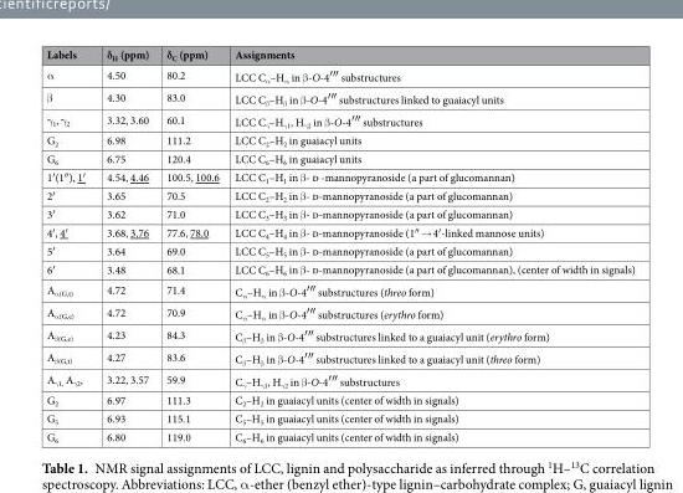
<table><thead><tr><td>Labels</td><td>δ<sub>H</sub> (ppm)</td><td>δ<sub>C</sub> (ppm)</td><td>Assignments</td></tr></thead><tbody><tr><td>α</td><td>4.50</td><td>80.2</td><td>LCC C<sub>α</sub>–H<sub>α</sub> in β-O-4′″ substructures</td></tr><tr><td>β</td><td>4.30</td><td>83.0</td><td>LCC C<sub>β</sub>–H<sub>β</sub> in β-O-4′″ substructures linked to guaiacyl units</td></tr><tr><td>γ<sub>1</sub>, γ<sub>2</sub></td><td>3.32, 3.60</td><td>60.1</td><td>LCC C<sub>γ</sub>–H<sub>γ1</sub>, H<sub>γ2</sub> in β-O-4′″ substructures</td></tr><tr><td>G<sub>2</sub></td><td>6.98</td><td>111.2</td><td>LCC C<sub>2</sub>–H<sub>2</sub> in guaiacyl units</td></tr><tr><td>G<sub>6</sub></td><td>6.75</td><td>120.4</td><td>LCC C<sub>6</sub>–H<sub>6</sub> in guaiacyl units</td></tr><tr><td>1′(1″), 1′</td><td>4.54, 4.46</td><td>100.5, 100.6</td><td>LCC C<sub>1</sub>–H<sub>1</sub> in β- d -mannopyranoside (a part of glucomannan)</td></tr><tr><td>2′</td><td>3.65</td><td>70.5</td><td>LCC C<sub>2</sub>–H<sub>2</sub> in β- d-mannopyranoside (a part of glucomannan)</td></tr><tr><td>3′</td><td>3.62</td><td>71.0</td><td>LCC C<sub>3</sub>–H<sub>3</sub> in β- d-mannopyranoside (a part of glucomannan)</td></tr><tr><td>4′, 4′</td><td>3.68, 3.76</td><td>77.6, 78.0</td><td>LCC C<sub>4</sub>–H<sub>4</sub> in β- d-mannopyranoside (1″ → 4′-linked mannose units)</td></tr><tr><td>5′</td><td>3.64</td><td>69.0</td><td>LCC C<sub>5</sub>–H<sub>5</sub> in β- d-mannopyranoside (a part of glucomannan)</td></tr><tr><td>6′</td><td>3.48</td><td>68.1</td><td>LCC C<sub>6</sub>–H<sub>6</sub> in β- d-mannopyranoside (a part of glucomannan), (center of width in signals)</td></tr><tr><td>A<sub>α(G,t)</sub></td><td>4.72</td><td>71.4</td><td>C<sub>α</sub>–H<sub>α</sub> in β-O-4′″ substructures (threo form)</td></tr><tr><td>A<sub>α(G,e)</sub></td><td>4.72</td><td>70.9</td><td>C<sub>α</sub>–H<sub>α</sub> in β-O-4′″ substructures (erythro form)</td></tr><tr><td>A<sub>β(G,e)</sub></td><td>4.23</td><td>84.3</td><td>C<sub>β</sub>–H<sub>β</sub> in β-O-4′″ substructures linked to a guaiacyl unit (erythro form)</td></tr><tr><td>A<sub>β(G,t)</sub></td><td>4.27</td><td>83.6</td><td>C<sub>β</sub>–H<sub>β</sub> in β-O-4′″ substructures linked to a guaiacyl unit (threo form)</td></tr><tr><td>A<sub>γ1,</sub> A<sub>γ2</sub>,</td><td>3.22, 3.57</td><td>59.9</td><td>C<sub>γ</sub>–H<sub>γ1</sub>, H<sub>γ2</sub> in β-O-4′″ substructures</td></tr><tr><td>G<sub>2</sub></td><td>6.97</td><td>111.3</td><td>C<sub>2</sub>–H<sub>2</sub> in guaiacyl units (center of width in signals)</td></tr><tr><td>G<sub>5</sub></td><td>6.93</td><td>115.1</td><td>C<sub>5</sub>–H<sub>5</sub> in guaiacyl units (center of width in signals)</td></tr><tr><td>G<sub>6</sub></td><td>6.80</td><td>119.0</td><td>C<sub>6</sub>–H<sub>6</sub> in guaiacyl units (center of width in signals)</td></tr></tbody></table>